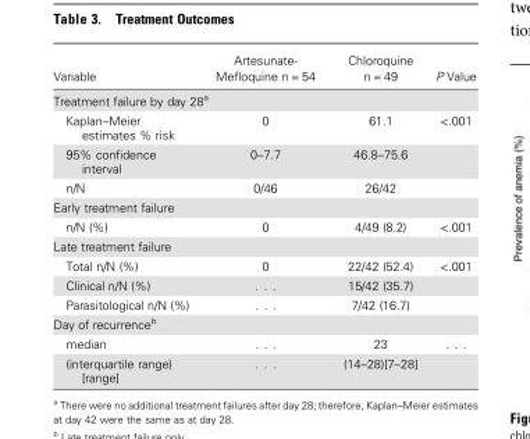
<table><thead><tr><td>Variable</td><td>Artesunate- Mefloquine n = 54</td><td>Chloroquine n = 49</td><td>P Value</td></tr></thead><tbody><tr><td colspan="4">Treatment failure by day 28<sup>a</sup></td></tr><tr><td>Kaplan–Meier estimates % risk</td><td>0</td><td>61.1</td><td>&lt;.001</td></tr><tr><td>95% confidence interval</td><td>0–7.7</td><td>46.8–75.6</td><td></td></tr><tr><td>n/N</td><td>0/46</td><td>26/42</td><td></td></tr><tr><td colspan="4">Early treatment failure</td></tr><tr><td>n/N (%)</td><td>0</td><td>4/49 (8.2)</td><td>&lt;.001</td></tr><tr><td colspan="4">Late treatment failure</td></tr><tr><td>Total n/N (%)</td><td>0</td><td>22/42 (52.4)</td><td>&lt;.001</td></tr><tr><td>Clinical n/N (%)</td><td>. . .</td><td>15/42 (35.7)</td><td></td></tr><tr><td>Parasitological n/N (%)</td><td>. . .</td><td>7/42 (16.7)</td><td></td></tr><tr><td colspan="4">Day of recurrence<sup>b</sup></td></tr><tr><td>median</td><td>. . .</td><td>23</td><td>. . .</td></tr><tr><td>(interquartile range) [range]</td><td>. . .</td><td>(14–28)[7–28]</td><td></td></tr></tbody></table>